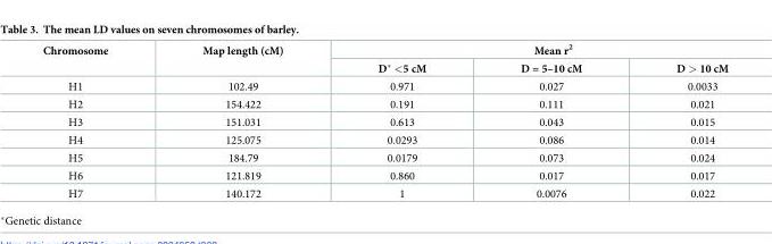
<table><thead><tr><td rowspan="2">Chromosome</td><td rowspan="2">Map length (cM)</td><td colspan="3">Mean r<sup>2</sup></td></tr><tr><td>D* &lt;5 cM</td><td>D = 5–10 cM</td><td>D &gt; 10 cM</td></tr></thead><tbody><tr><td>H1</td><td>102.49</td><td>0.971</td><td>0.027</td><td>0.0033</td></tr><tr><td>H2</td><td>154.422</td><td>0.191</td><td>0.111</td><td>0.021</td></tr><tr><td>H3</td><td>151.031</td><td>0.613</td><td>0.043</td><td>0.015</td></tr><tr><td>H4</td><td>125.075</td><td>0.0293</td><td>0.086</td><td>0.014</td></tr><tr><td>H5</td><td>184.79</td><td>0.0179</td><td>0.073</td><td>0.024</td></tr><tr><td>H6</td><td>121.819</td><td>0.860</td><td>0.017</td><td>0.017</td></tr><tr><td>H7</td><td>140.172</td><td>1</td><td>0.0076</td><td>0.022</td></tr></tbody></table>